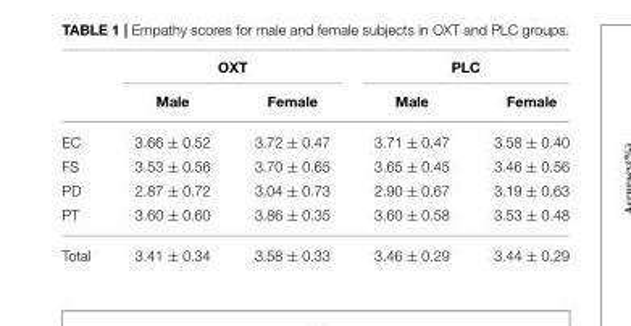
<table><thead><tr><td rowspan="2"></td><td colspan="2">OXT</td><td colspan="2">PLC</td></tr><tr><td>Male</td><td>Female</td><td>Male</td><td>Female</td></tr></thead><tbody><tr><td>EC</td><td>3.66 ± 0.52</td><td>3.72 ± 0.47</td><td>3.71 ± 0.47</td><td>3.58 ± 0.40</td></tr><tr><td>FS</td><td>3.53 ± 0.56</td><td>3.70 ± 0.65</td><td>3.65 ± 0.45</td><td>3.46 ± 0.56</td></tr><tr><td>PD</td><td>2.87 ± 0.72</td><td>3.04 ± 0.73</td><td>2.90 ± 0.67</td><td>3.19 ± 0.63</td></tr><tr><td>PT</td><td>3.60 ± 0.60</td><td>3.86 ± 0.35</td><td>3.60 ± 0.58</td><td>3.53 ± 0.48</td></tr><tr><td>Total</td><td>3.41 ± 0.34</td><td>3.58 ± 0.33</td><td>3.46 ± 0.29</td><td>3.44 ± 0.29</td></tr></tbody></table>